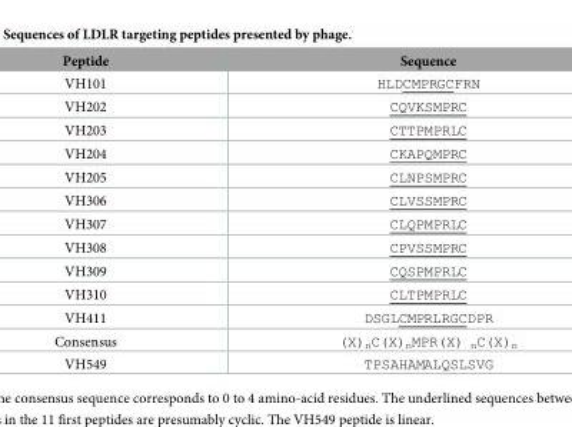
<table><thead><tr><td>Peptide</td><td>Sequence</td></tr></thead><tbody><tr><td>VH101</td><td>HLDCMPRGCFRN</td></tr><tr><td>VH202</td><td>CQVKSMPRC</td></tr><tr><td>VH203</td><td>CTTPMPRLC</td></tr><tr><td>VH204</td><td>CKAPQMPRC</td></tr><tr><td>VH205</td><td>CLNPSMPRC</td></tr><tr><td>VH306</td><td>CLVSSMPRC</td></tr><tr><td>VH307</td><td>CLQPMPRLC</td></tr><tr><td>VH308</td><td>CPVSSMPRC</td></tr><tr><td>VH309</td><td>CQSPMPRLC</td></tr><tr><td>VH310</td><td>CLTPMPRLC</td></tr><tr><td>VH411</td><td>DSGLCMPRLRGCDPR</td></tr><tr><td>Consensus</td><td>(X)<sub>n</sub>C(X)<sub>n</sub>MPR(X) <sub>n</sub>C(X)<sub>n</sub></td></tr><tr><td>VH549</td><td>TPSAHAMALQSLSVG</td></tr></tbody></table>